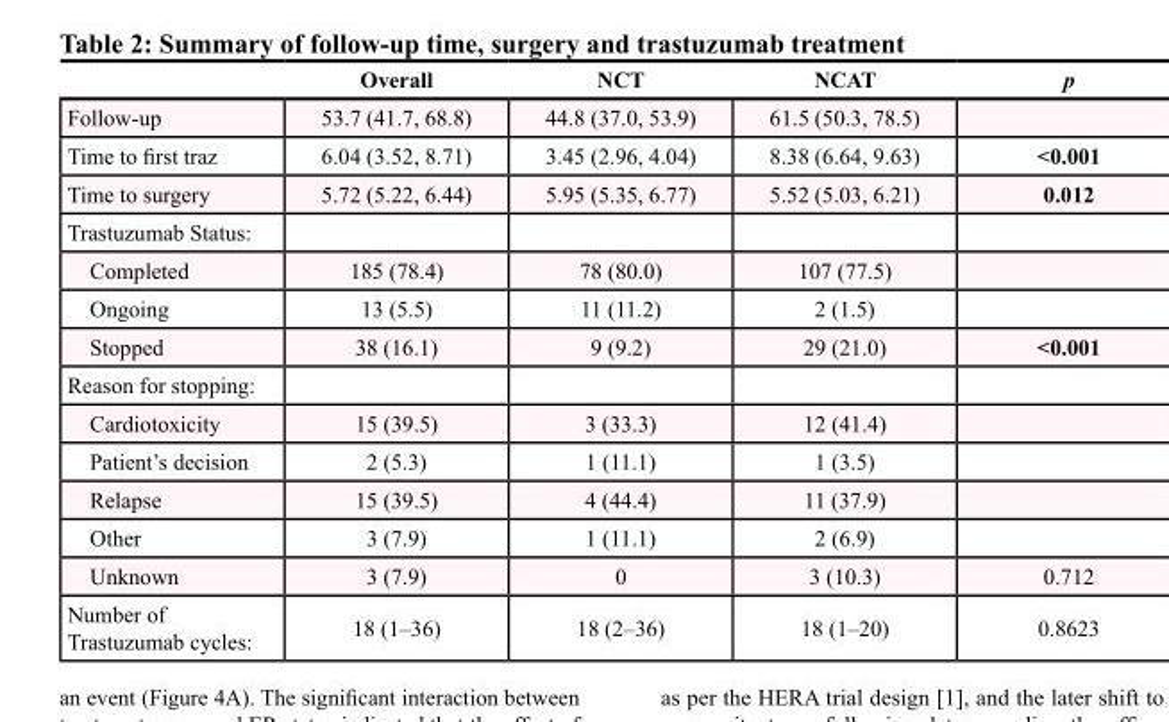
<table><thead><tr><td></td><td>Overall</td><td>NCT</td><td>NCAT</td><td>p</td></tr></thead><tbody><tr><td>Follow-up</td><td>53.7 (41.7, 68.8)</td><td>44.8 (37.0, 53.9)</td><td>61.5 (50.3, 78.5)</td><td></td></tr><tr><td>Time to first traz</td><td>6.04 (3.52, 8.71)</td><td>3.45 (2.96, 4.04)</td><td>8.38 (6.64, 9.63)</td><td>&lt;0.001</td></tr><tr><td>Time to surgery</td><td>5.72 (5.22, 6.44)</td><td>5.95 (5.35, 6.77)</td><td>5.52 (5.03, 6.21)</td><td>0.012</td></tr><tr><td colspan="5">Trastuzumab Status:</td></tr><tr><td>Completed</td><td>185 (78.4)</td><td>78 (80.0)</td><td>107 (77.5)</td><td></td></tr><tr><td>Ongoing</td><td>13 (5.5)</td><td>11 (11.2)</td><td>2 (1.5)</td><td></td></tr><tr><td>Stopped</td><td>38 (16.1)</td><td>9 (9.2)</td><td>29 (21.0)</td><td>&lt;0.001</td></tr><tr><td colspan="5">Reason for stopping:</td></tr><tr><td>Cardiotoxicity</td><td>15 (39.5)</td><td>3 (33.3)</td><td>12 (41.4)</td><td></td></tr><tr><td>Patient’s decision</td><td>2 (5.3)</td><td>1 (11.1)</td><td>1 (3.5)</td><td></td></tr><tr><td>Relapse</td><td>15 (39.5)</td><td>4 (44.4)</td><td>11 (37.9)</td><td></td></tr><tr><td>Other</td><td>3 (7.9)</td><td>1 (11.1)</td><td>2 (6.9)</td><td></td></tr><tr><td>Unknown</td><td>3 (7.9)</td><td>0</td><td>3 (10.3)</td><td>0.712</td></tr><tr><td>Number of Trastuzumab cycles:</td><td>18 (1–36)</td><td>18 (2–36)</td><td>18 (1–20)</td><td>0.8623</td></tr></tbody></table>